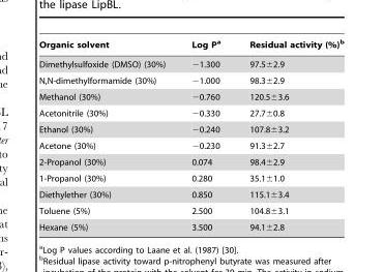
<table><thead><tr><td>Organic solvent</td><td>Log P<sup>a</sup></td><td>Residual activity (%)<sup>b</sup></td></tr></thead><tbody><tr><td>Dimethylsulfoxide (DMSO) (30%)</td><td>−1.300</td><td>97.5±2.9</td></tr><tr><td>N,N-dimethylformamide (30%)</td><td>−1.000</td><td>98.3±2.9</td></tr><tr><td>Methanol (30%)</td><td>−0.760</td><td>120.5±3.6</td></tr><tr><td>Acetonitrile (30%)</td><td>−0.330</td><td>27.7±0.8</td></tr><tr><td>Ethanol (30%)</td><td>−0.240</td><td>107.8±3.2</td></tr><tr><td>Acetone (30%)</td><td>−0.230</td><td>91.3±2.7</td></tr><tr><td>2-Propanol (30%)</td><td>0.074</td><td>98.4±2.9</td></tr><tr><td>1-Propanol (30%)</td><td>0.280</td><td>35.1±1.0</td></tr><tr><td>Diethylether (30%)</td><td>0.850</td><td>115.1±3.4</td></tr><tr><td>Toluene (5%)</td><td>2.500</td><td>104.8±3.1</td></tr><tr><td>Hexane (5%)</td><td>3.500</td><td>94.1±2.8</td></tr></tbody></table>